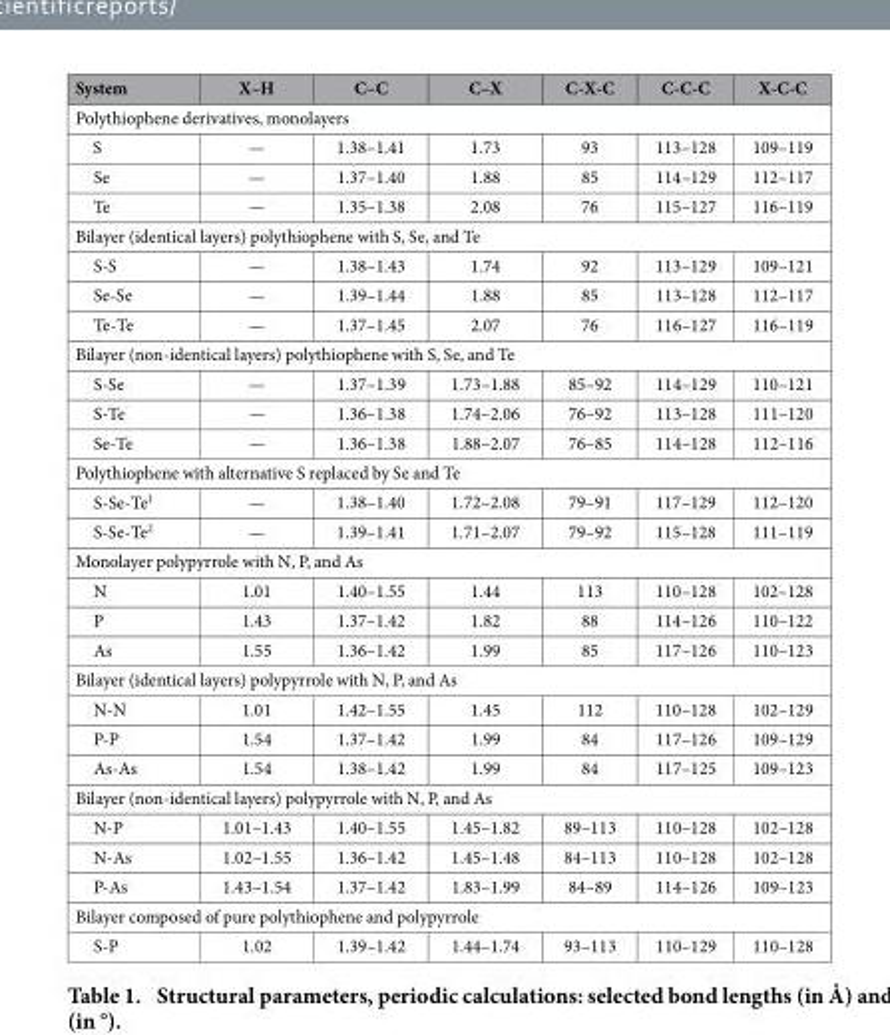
<table><thead><tr><td>System</td><td>X–H</td><td>C–C</td><td>C–X</td><td>C-X-C</td><td>C-C-C</td><td>X-C-C</td></tr></thead><tbody><tr><td colspan="7">Polythiophene derivatives, monolayers</td></tr><tr><td>S</td><td>—</td><td>1.38–1.41</td><td>1.73</td><td>93</td><td>113–128</td><td>109–119</td></tr><tr><td>Se</td><td>—</td><td>1.37–1.40</td><td>1.88</td><td>85</td><td>114–129</td><td>112–117</td></tr><tr><td>Te</td><td>—</td><td>1.35–1.38</td><td>2.08</td><td>76</td><td>115–127</td><td>116–119</td></tr><tr><td colspan="7">Bilayer (identical layers) polythiophene with S, Se, and Te</td></tr><tr><td>S-S</td><td>—</td><td>1.38–1.43</td><td>1.74</td><td>92</td><td>113–129</td><td>109–121</td></tr><tr><td>Se-Se</td><td>—</td><td>1.39–1.44</td><td>1.88</td><td>85</td><td>113–128</td><td>112–117</td></tr><tr><td>Te-Te</td><td>—</td><td>1.37–1.45</td><td>2.07</td><td>76</td><td>116–127</td><td>116–119</td></tr><tr><td colspan="7">Bilayer (non-identical layers) polythiophene with S, Se, and Te</td></tr><tr><td>S-Se</td><td>—</td><td>1.37–1.39</td><td>1.73–1.88</td><td>85–92</td><td>114–129</td><td>110–121</td></tr><tr><td>S-Te</td><td>—</td><td>1.36–1.38</td><td>1.74–2.06</td><td>76–92</td><td>113–128</td><td>111–120</td></tr><tr><td>Se-Te</td><td>—</td><td>1.36–1.38</td><td>1.88–2.07</td><td>76–85</td><td>114–128</td><td>112–116</td></tr><tr><td colspan="7">Polythiophene with alternative S replaced by Se and Te</td></tr><tr><td>S-Se-Te<sup>1</sup></td><td>—</td><td>1.38–1.40</td><td>1.72–2.08</td><td>79–91</td><td>117–129</td><td>112–120</td></tr><tr><td>S-Se-Te<sup>2</sup></td><td>—</td><td>1.39–1.41</td><td>1.71–2.07</td><td>79–92</td><td>115–128</td><td>111–119</td></tr><tr><td colspan="7">Monolayer polypyrrole with N, P, and As</td></tr><tr><td>N</td><td>1.01</td><td>1.40–1.55</td><td>1.44</td><td>113</td><td>110–128</td><td>102–128</td></tr><tr><td>P</td><td>1.43</td><td>1.37–1.42</td><td>1.82</td><td>88</td><td>114–126</td><td>110–122</td></tr><tr><td>As</td><td>1.55</td><td>1.36–1.42</td><td>1.99</td><td>85</td><td>117–126</td><td>110–123</td></tr><tr><td colspan="7">Bilayer (identical layers) polypyrrole with N, P, and As</td></tr><tr><td>N-N</td><td>1.01</td><td>1.42–1.55</td><td>1.45</td><td>112</td><td>110–128</td><td>102–129</td></tr><tr><td>P-P</td><td>1.54</td><td>1.37–1.42</td><td>1.99</td><td>84</td><td>117–126</td><td>109–129</td></tr><tr><td>As-As</td><td>1.54</td><td>1.38–1.42</td><td>1.99</td><td>84</td><td>117–125</td><td>109–123</td></tr><tr><td colspan="7">Bilayer (non-identical layers) polypyrrole with N, P, and As</td></tr><tr><td>N-P</td><td>1.01–1.43</td><td>1.40–1.55</td><td>1.45–1.82</td><td>89–113</td><td>110–128</td><td>102–128</td></tr><tr><td>N-As</td><td>1.02–1.55</td><td>1.36–1.42</td><td>1.45–1.48</td><td>84–113</td><td>110–128</td><td>102–128</td></tr><tr><td>P-As</td><td>1.43–1.54</td><td>1.37–1.42</td><td>1.83–1.99</td><td>84–89</td><td>114–126</td><td>109–123</td></tr><tr><td colspan="7">Bilayer composed of pure polythiophene and polypyrrole</td></tr><tr><td>S-P</td><td>1.02</td><td>1.39–1.42</td><td>1.44–1.74</td><td>93–113</td><td>110–129</td><td>110–128</td></tr></tbody></table>